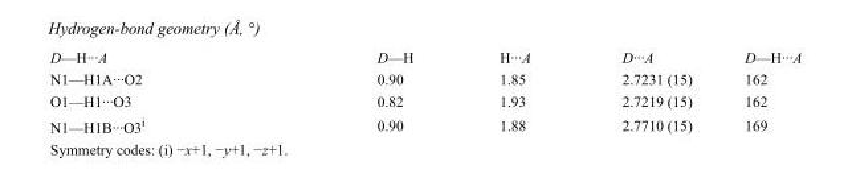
<table><tbody><tr><td>D—H···A</td><td>D—H</td><td>H···A</td><td>D···A</td><td>D—H···A</td></tr><tr><td>N1—H1A···O2</td><td>0.90</td><td>1.85</td><td>2.7231 (15)</td><td>162</td></tr><tr><td>O1—H1···O3</td><td>0.82</td><td>1.93</td><td>2.7219 (15)</td><td>162</td></tr><tr><td>N1—H1B···O3<sup>i</sup></td><td>0.90</td><td>1.88</td><td>2.7710 (15)</td><td>169</td></tr></tbody></table>